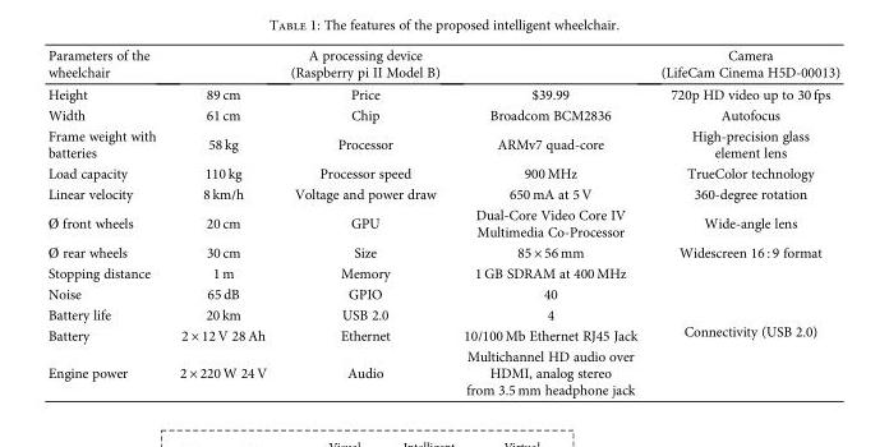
<table><thead><tr><td>Parameters of the wheelchair</td><td></td><td>A processing device (Raspberry pi II Model B)</td><td></td><td>Camera (LifeCam Cinema H5D-00013)</td></tr></thead><tbody><tr><td>Height</td><td>89 cm</td><td>Price</td><td>$39.99</td><td>720p HD video up to 30 fps</td></tr><tr><td>Width</td><td>61 cm</td><td>Chip</td><td>Broadcom BCM2836</td><td>Autofocus</td></tr><tr><td>Frame weight with batteries</td><td>58 kg</td><td>Processor</td><td>ARMv7 quad-core</td><td>High-precision glass element lens</td></tr><tr><td>Load capacity</td><td>110 kg</td><td>Processor speed</td><td>900 MHz</td><td>TrueColor technology</td></tr><tr><td>Linear velocity</td><td>8 km/h</td><td>Voltage and power draw</td><td>650 mA at 5 V</td><td>360-degree rotation</td></tr><tr><td>Ø front wheels</td><td>20 cm</td><td>GPU</td><td>Dual-Core Video Core IV Multimedia Co-Processor</td><td>Wide-angle lens</td></tr><tr><td>Ø rear wheels</td><td>30 cm</td><td>Size</td><td>85 × 56 mm</td><td>Widescreen 16 : 9 format</td></tr><tr><td>Stopping distance</td><td>1 m</td><td>Memory</td><td>1 GB SDRAM at 400 MHz</td><td rowspan="5">Connectivity (USB 2.0)</td></tr><tr><td>Noise</td><td>65 dB</td><td>GPIO</td><td>40</td></tr><tr><td>Battery life</td><td>20 km</td><td>USB 2.0</td><td>4</td></tr><tr><td>Battery</td><td>2 × 12 V 28 Ah</td><td>Ethernet</td><td>10/100 Mb Ethernet RJ45 Jack</td></tr><tr><td>Engine power</td><td>2 × 220 W 24 V</td><td>Audio</td><td>Multichannel HD audio over HDMI, analog stereo from 3.5 mm headphone jack</td></tr></tbody></table>